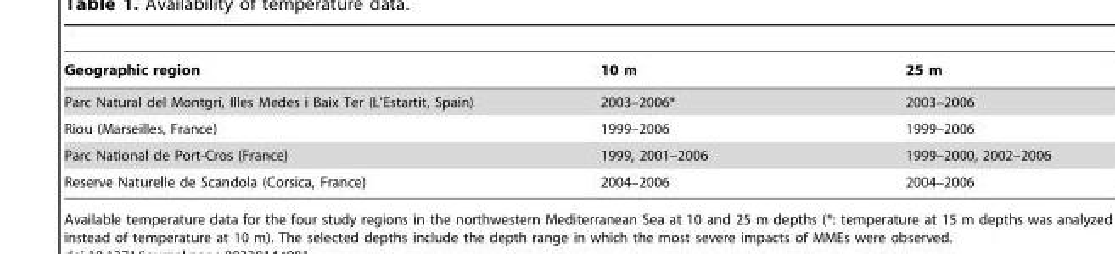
<table><thead><tr><td>Geographic region</td><td>10 m</td><td>25 m</td></tr></thead><tbody><tr><td>Parc Natural del Montgrı´, Illes Medes i Baix Ter (L’Estartit, Spain)</td><td>2003–2006*</td><td>2003–2006</td></tr><tr><td>Riou (Marseilles, France)</td><td>1999–2006</td><td>1999–2006</td></tr><tr><td>Parc National de Port-Cros (France)</td><td>1999, 2001–2006</td><td>1999–2000, 2002–2006</td></tr><tr><td>Reserve Naturelle de Scandola (Corsica, France)</td><td>2004–2006</td><td>2004–2006</td></tr></tbody></table>